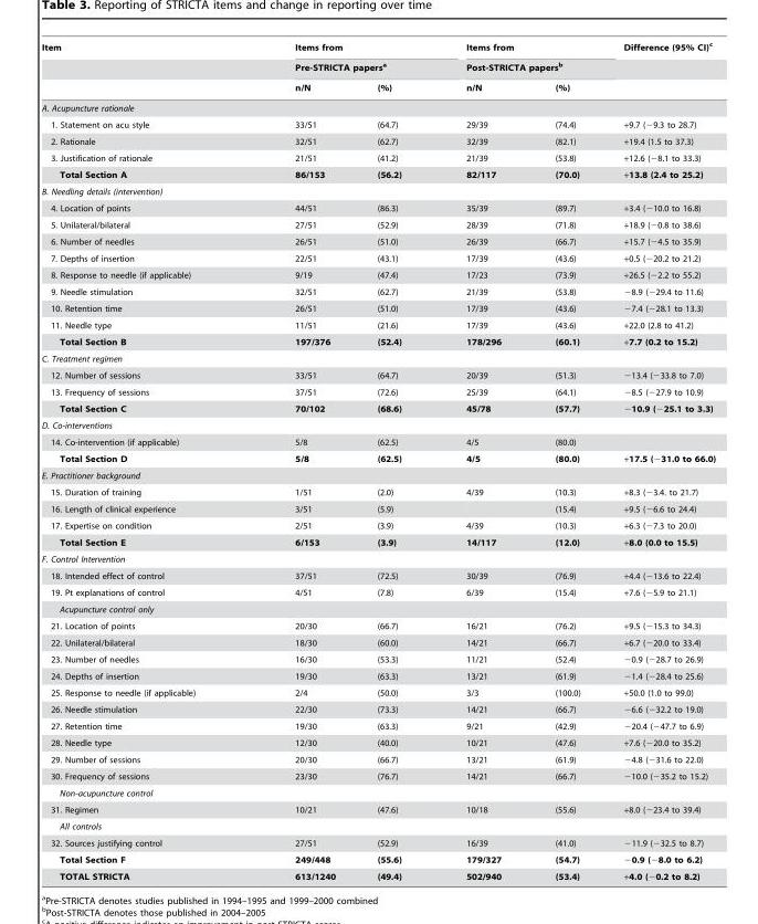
<table><thead><tr><td rowspan="3">Item</td><td rowspan="2" colspan="2">Items from Pre-STRICTA papers<sup>a</sup></td><td rowspan="2" colspan="2">Items from Post-STRICTA papers<sup>b</sup></td><td rowspan="3">Difference (95% CI)<sup>c</sup></td></tr><tr></tr><tr><td>n/N</td><td>(%)</td><td>n/N</td><td>(%)</td></tr></thead><tbody><tr><td colspan="6">A. Acupuncture rationale</td></tr><tr><td>1. Statement on acu style</td><td>33/51</td><td>(64.7)</td><td>29/39</td><td>(74.4)</td><td>+9.7 (−9.3 to 28.7)</td></tr><tr><td>2. Rationale</td><td>32/51</td><td>(62.7)</td><td>32/39</td><td>(82.1)</td><td>+19.4 (1.5 to 37.3)</td></tr><tr><td>3. Justification of rationale</td><td>21/51</td><td>(41.2)</td><td>21/39</td><td>(53.8)</td><td>+12.6 (−8.1 to 33.3)</td></tr><tr><td>Total Section A</td><td>86/153</td><td>(56.2)</td><td>82/117</td><td>(70.0)</td><td>+13.8 (2.4 to 25.2)</td></tr><tr><td colspan="6">B. Needling details (intervention)</td></tr><tr><td>4. Location of points</td><td>44/51</td><td>(86.3)</td><td>35/39</td><td>(89.7)</td><td>+3.4 (−10.0 to 16.8)</td></tr><tr><td>5. Unilateral/bilateral</td><td>27/51</td><td>(52.9)</td><td>28/39</td><td>(71.8)</td><td>+18.9 (−0.8 to 38.6)</td></tr><tr><td>6. Number of needles</td><td>26/51</td><td>(51.0)</td><td>26/39</td><td>(66.7)</td><td>+15.7 (−4.5 to 35.9)</td></tr><tr><td>7. Depths of insertion</td><td>22/51</td><td>(43.1)</td><td>17/39</td><td>(43.6)</td><td>+0.5 (−20.2 to 21.2)</td></tr><tr><td>8. Response to needle (if applicable)</td><td>9/19</td><td>(47.4)</td><td>17/23</td><td>(73.9)</td><td>+26.5 (−2.2 to 55.2)</td></tr><tr><td>9. Needle stimulation</td><td>32/51</td><td>(62.7)</td><td>21/39</td><td>(53.8)</td><td>−8.9 (−29.4 to 11.6)</td></tr><tr><td>10. Retention time</td><td>26/51</td><td>(51.0)</td><td>17/39</td><td>(43.6)</td><td>−7.4 (−28.1 to 13.3)</td></tr><tr><td>11. Needle type</td><td>11/51</td><td>(21.6)</td><td>17/39</td><td>(43.6)</td><td>+22.0 (2.8 to 41.2)</td></tr><tr><td>Total Section B</td><td>197/376</td><td>(52.4)</td><td>178/296</td><td>(60.1)</td><td>+7.7 (0.2 to 15.2)</td></tr><tr><td colspan="6">C. Treatment regimen</td></tr><tr><td>12. Number of sessions</td><td>33/51</td><td>(64.7)</td><td>20/39</td><td>(51.3)</td><td>−13.4 (−33.8 to 7.0)</td></tr><tr><td>13. Frequency of sessions</td><td>37/51</td><td>(72.6)</td><td>25/39</td><td>(64.1)</td><td>−8.5 (−27.9 to 10.9)</td></tr><tr><td>Total Section C</td><td>70/102</td><td>(68.6)</td><td>45/78</td><td>(57.7)</td><td>−10.9 (−25.1 to 3.3)</td></tr><tr><td colspan="6">D. Co-interventions</td></tr><tr><td>14. Co-intervention (if applicable)</td><td>5/8</td><td>(62.5)</td><td>4/5</td><td>(80.0)</td><td></td></tr><tr><td>Total Section D</td><td>5/8</td><td>(62.5)</td><td>4/5</td><td>(80.0)</td><td>+17.5 (−31.0 to 66.0)</td></tr><tr><td colspan="6">E. Practitioner background</td></tr><tr><td>15. Duration of training</td><td>1/51</td><td>(2.0)</td><td>4/39</td><td>(10.3)</td><td>+8.3 (−3.4. to 21.7)</td></tr><tr><td>16. Length of clinical experience</td><td>3/51</td><td>(5.9)</td><td></td><td>(15.4)</td><td>+9.5 (−6.6 to 24.4)</td></tr><tr><td>17. Expertise on condition</td><td>2/51</td><td>(3.9)</td><td>4/39</td><td>(10.3)</td><td>+6.3 (−7.3 to 20.0)</td></tr><tr><td>Total Section E</td><td>6/153</td><td>(3.9)</td><td>14/117</td><td>(12.0)</td><td>+8.0 (0.0 to 15.5)</td></tr><tr><td colspan="6">F. Control Intervention</td></tr><tr><td>18. Intended effect of control</td><td>37/51</td><td>(72.5)</td><td>30/39</td><td>(76.9)</td><td>+4.4 (−13.6 to 22.4)</td></tr><tr><td>19. Pt explanations of control</td><td>4/51</td><td>(7.8)</td><td>6/39</td><td>(15.4)</td><td>+7.6 (−5.9 to 21.1)</td></tr><tr><td colspan="6">Acupuncture control only</td></tr><tr><td>21. Location of points</td><td>20/30</td><td>(66.7)</td><td>16/21</td><td>(76.2)</td><td>+9.5 (−15.3 to 34.3)</td></tr><tr><td>22. Unilateral/bilateral</td><td>18/30</td><td>(60.0)</td><td>14/21</td><td>(66.7)</td><td>+6.7 (−20.0 to 33.4)</td></tr><tr><td>23. Number of needles</td><td>16/30</td><td>(53.3)</td><td>11/21</td><td>(52.4)</td><td>−0.9 (−28.7 to 26.9)</td></tr><tr><td>24. Depths of insertion</td><td>19/30</td><td>(63.3)</td><td>13/21</td><td>(61.9)</td><td>−1.4 (−28.4 to 25.6)</td></tr><tr><td>25. Response to needle (if applicable)</td><td>2/4</td><td>(50.0)</td><td>3/3</td><td>(100.0)</td><td>+50.0 (1.0 to 99.0)</td></tr><tr><td>26. Needle stimulation</td><td>22/30</td><td>(73.3)</td><td>14/21</td><td>(66.7)</td><td>−6.6 (−32.2 to 19.0)</td></tr><tr><td>27. Retention time</td><td>19/30</td><td>(63.3)</td><td>9/21</td><td>(42.9)</td><td>−20.4 (−47.7 to 6.9)</td></tr><tr><td>28. Needle type</td><td>12/30</td><td>(40.0)</td><td>10/21</td><td>(47.6)</td><td>+7.6 (−20.0 to 35.2)</td></tr><tr><td>29. Number of sessions</td><td>20/30</td><td>(66.7)</td><td>13/21</td><td>(61.9)</td><td>−4.8 (−31.6 to 22.0)</td></tr><tr><td>30. Frequency of sessions</td><td>23/30</td><td>(76.7)</td><td>14/21</td><td>(66.7)</td><td>−10.0 (−35.2 to 15.2)</td></tr><tr><td colspan="6">Non-acupuncture control</td></tr><tr><td>31. Regimen</td><td>10/21</td><td>(47.6)</td><td>10/18</td><td>(55.6)</td><td>+8.0 (−23.4 to 39.4)</td></tr><tr><td colspan="6">All controls</td></tr><tr><td>32. Sources justifying control</td><td>27/51</td><td>(52.9)</td><td>16/39</td><td>(41.0)</td><td>−11.9 (−32.5 to 8.7)</td></tr><tr><td>Total Section F</td><td>249/448</td><td>(55.6)</td><td>179/327</td><td>(54.7)</td><td>−0.9 (−8.0 to 6.2)</td></tr><tr><td>TOTAL STRICTA</td><td>613/1240</td><td>(49.4)</td><td>502/940</td><td>(53.4)</td><td>+4.0 (−0.2 to 8.2)</td></tr></tbody></table>